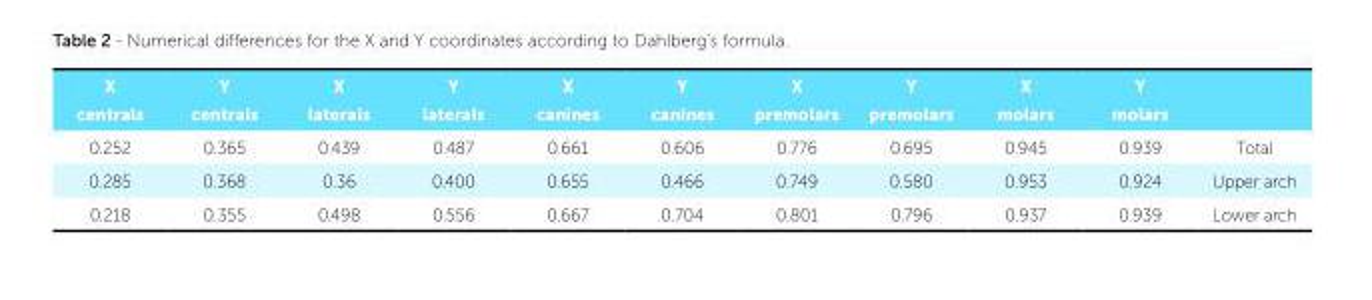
<table><thead><tr><td>X centrals</td><td>Y centrals</td><td>X laterals</td><td>Y laterals</td><td>X canines</td><td>Y canines</td><td>X premolars</td><td>Y premolars</td><td>X molars</td><td>Y molars</td><td></td></tr></thead><tbody><tr><td>0.252</td><td>0.365</td><td>0.439</td><td>0.487</td><td>0.661</td><td>0.606</td><td>0.776</td><td>0.695</td><td>0.945</td><td>0.939</td><td>Total</td></tr><tr><td>0.285</td><td>0.368</td><td>0.36</td><td>0.400</td><td>0.655</td><td>0.466</td><td>0.749</td><td>0.580</td><td>0.953</td><td>0.924</td><td>Upper arch</td></tr><tr><td>0.218</td><td>0.355</td><td>0.498</td><td>0.556</td><td>0.667</td><td>0.704</td><td>0.801</td><td>0.796</td><td>0.937</td><td>0.939</td><td>Lower arch</td></tr></tbody></table>